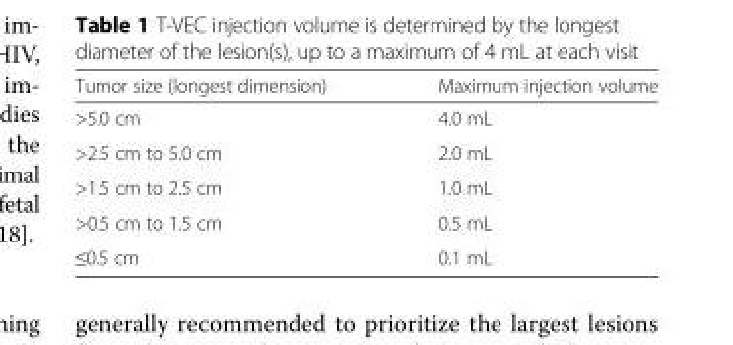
<table><thead><tr><td>Tumor size (longest dimension)</td><td>Maximum injection volume</td></tr></thead><tbody><tr><td>&gt;5.0 cm</td><td>4.0 mL</td></tr><tr><td>&gt;2.5 cm to 5.0 cm</td><td>2.0 mL</td></tr><tr><td>&gt;1.5 cm to 2.5 cm</td><td>1.0 mL</td></tr><tr><td>&gt;0.5 cm to 1.5 cm</td><td>0.5 mL</td></tr><tr><td>≤0.5 cm</td><td>0.1 mL</td></tr></tbody></table>